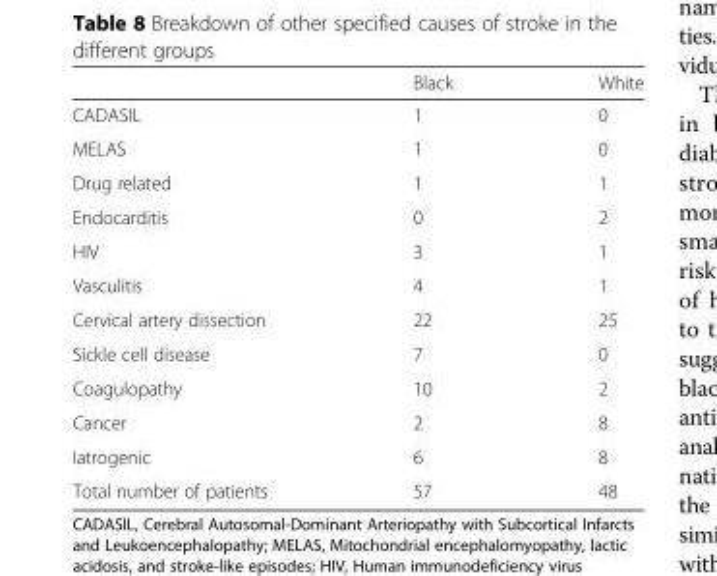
<table><thead><tr><td></td><td>Black</td><td>White</td></tr></thead><tbody><tr><td>CADASIL</td><td>1</td><td>0</td></tr><tr><td>MELAS</td><td>1</td><td>0</td></tr><tr><td>Drug related</td><td>1</td><td>1</td></tr><tr><td>Endocarditis</td><td>0</td><td>2</td></tr><tr><td>HIV</td><td>3</td><td>1</td></tr><tr><td>Vasculitis</td><td>4</td><td>1</td></tr><tr><td>Cervical artery dissection</td><td>22</td><td>25</td></tr><tr><td>Sickle cell disease</td><td>7</td><td>0</td></tr><tr><td>Coagulopathy</td><td>10</td><td>2</td></tr><tr><td>Cancer</td><td>2</td><td>8</td></tr><tr><td>Iatrogenic</td><td>6</td><td>8</td></tr><tr><td>Total number of patients</td><td>57</td><td>48</td></tr></tbody></table>